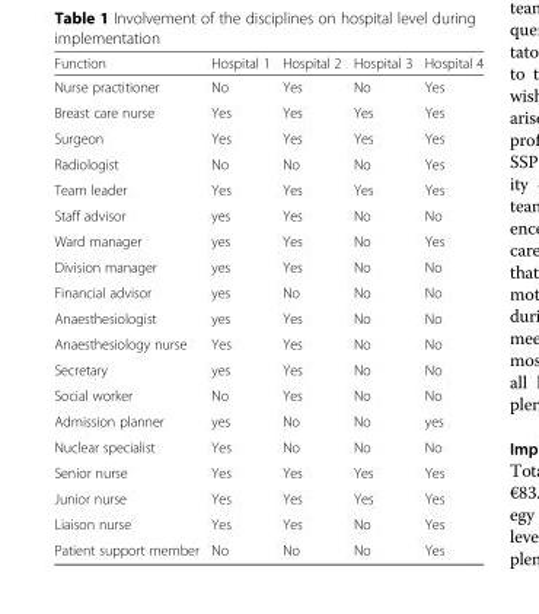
<table><thead><tr><td>Function</td><td>Hospital 1</td><td>Hospital 2</td><td>Hospital 3</td><td>Hospital 4</td></tr></thead><tbody><tr><td>Nurse practitioner</td><td>No</td><td>Yes</td><td>No</td><td>Yes</td></tr><tr><td>Breast care nurse</td><td>Yes</td><td>Yes</td><td>Yes</td><td>Yes</td></tr><tr><td>Surgeon</td><td>Yes</td><td>Yes</td><td>Yes</td><td>Yes</td></tr><tr><td>Radiologist</td><td>No</td><td>No</td><td>No</td><td>Yes</td></tr><tr><td>Team leader</td><td>Yes</td><td>Yes</td><td>Yes</td><td>Yes</td></tr><tr><td>Staff advisor</td><td>yes</td><td>Yes</td><td>No</td><td>No</td></tr><tr><td>Ward manager</td><td>yes</td><td>Yes</td><td>No</td><td>Yes</td></tr><tr><td>Division manager</td><td>yes</td><td>Yes</td><td>No</td><td>No</td></tr><tr><td>Financial advisor</td><td>yes</td><td>No</td><td>No</td><td>No</td></tr><tr><td>Anaesthesiologist</td><td>yes</td><td>Yes</td><td>No</td><td>No</td></tr><tr><td>Anaesthesiology nurse</td><td>Yes</td><td>Yes</td><td>No</td><td>No</td></tr><tr><td>Secretary</td><td>yes</td><td>Yes</td><td>No</td><td>No</td></tr><tr><td>Social worker</td><td>No</td><td>Yes</td><td>No</td><td>No</td></tr><tr><td>Admission planner</td><td>yes</td><td>No</td><td>No</td><td>yes</td></tr><tr><td>Nuclear specialist</td><td>Yes</td><td>No</td><td>No</td><td>No</td></tr><tr><td>Senior nurse</td><td>Yes</td><td>Yes</td><td>Yes</td><td>Yes</td></tr><tr><td>Junior nurse</td><td>Yes</td><td>Yes</td><td>Yes</td><td>Yes</td></tr><tr><td>Liaison nurse</td><td>Yes</td><td>Yes</td><td>No</td><td>Yes</td></tr><tr><td>Patient support member</td><td>No</td><td>No</td><td>No</td><td>Yes</td></tr></tbody></table>